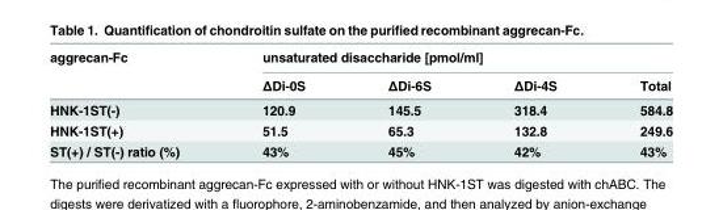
<table><thead><tr><td rowspan="2">aggrecan-Fc</td><td colspan="4">unsaturated disaccharide [pmol/ml]</td></tr><tr><td>ΔDi-0S</td><td>ΔDi-6S</td><td>ΔDi-4S</td><td>Total</td></tr></thead><tbody><tr><td>HNK-1ST(-)</td><td>120.9</td><td>145.5</td><td>318.4</td><td>584.8</td></tr><tr><td>HNK-1ST(+)</td><td>51.5</td><td>65.3</td><td>132.8</td><td>249.6</td></tr><tr><td>ST(+) / ST(-) ratio (%)</td><td>43%</td><td>45%</td><td>42%</td><td>43%</td></tr></tbody></table>